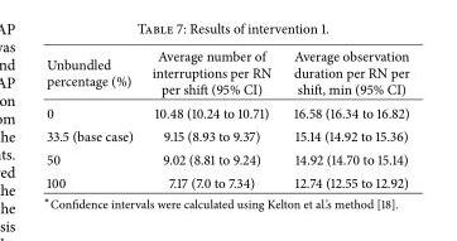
<table><thead><tr><td>Unbundled percentage (%)</td><td>Average number of interruptions per RN per shift (95% CI)</td><td>Average observation duration per RN per shift, min (95% CI)</td></tr></thead><tbody><tr><td>0</td><td>10.48 (10.24 to 10.71)</td><td>16.58 (16.34 to 16.82)</td></tr><tr><td>33.5 (base case)</td><td>9.15 (8.93 to 9.37)</td><td>15.14 (14.92 to 15.36)</td></tr><tr><td>50</td><td>9.02 (8.81 to 9.24)</td><td>14.92 (14.70 to 15.14)</td></tr><tr><td>100</td><td>7.17 (7.0 to 7.34)</td><td>12.74 (12.55 to 12.92)</td></tr></tbody></table>